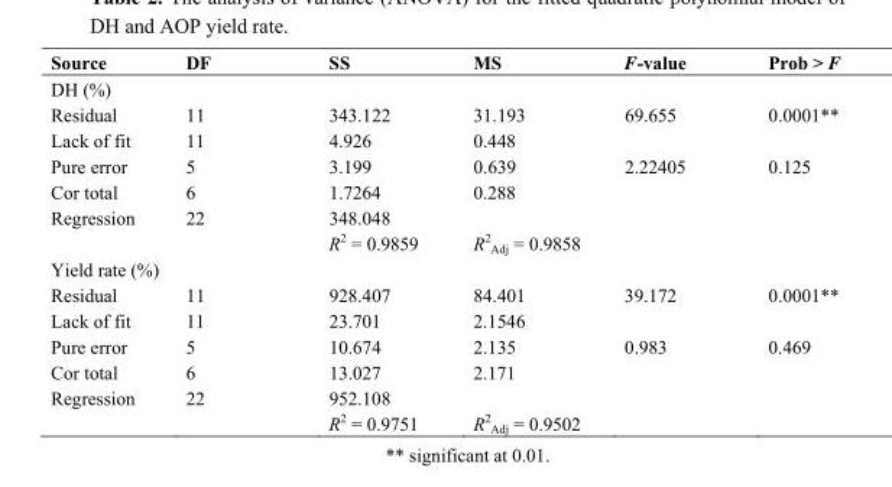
<table><thead><tr><td>Source</td><td>DF</td><td>SS</td><td>MS</td><td>F-value</td><td>Prob &gt; F</td></tr></thead><tbody><tr><td colspan="6">DH (%)</td></tr><tr><td>Residual</td><td>11</td><td>343.122</td><td>31.193</td><td>69.655</td><td>0.0001**</td></tr><tr><td>Lack of fit</td><td>11</td><td>4.926</td><td>0.448</td><td></td><td></td></tr><tr><td>Pure error</td><td>5</td><td>3.199</td><td>0.639</td><td>2.22405</td><td>0.125</td></tr><tr><td>Cor total</td><td>6</td><td>1.7264</td><td>0.288</td><td></td><td></td></tr><tr><td rowspan="2">Regression</td><td>22</td><td>348.048</td><td></td><td></td><td></td></tr><tr><td></td><td>R<sup>2</sup> = 0.9859</td><td>R<sup>2</sup> <sub>Adj</sub> = 0.9858</td><td></td><td></td></tr><tr><td colspan="6">Yield rate (%)</td></tr><tr><td>Residual</td><td>11</td><td>928.407</td><td>84.401</td><td>39.172</td><td>0.0001**</td></tr><tr><td>Lack of fit</td><td>11</td><td>23.701</td><td>2.1546</td><td></td><td></td></tr><tr><td>Pure error</td><td>5</td><td>10.674</td><td>2.135</td><td>0.983</td><td>0.469</td></tr><tr><td>Cor total</td><td>6</td><td>13.027</td><td>2.171</td><td></td><td></td></tr><tr><td rowspan="2">Regression</td><td>22</td><td>952.108</td><td></td><td></td><td></td></tr><tr><td></td><td>R<sup>2</sup> = 0.9751</td><td>R<sup>2</sup> <sub>Adj</sub> = 0.9502</td><td></td><td></td></tr></tbody></table>